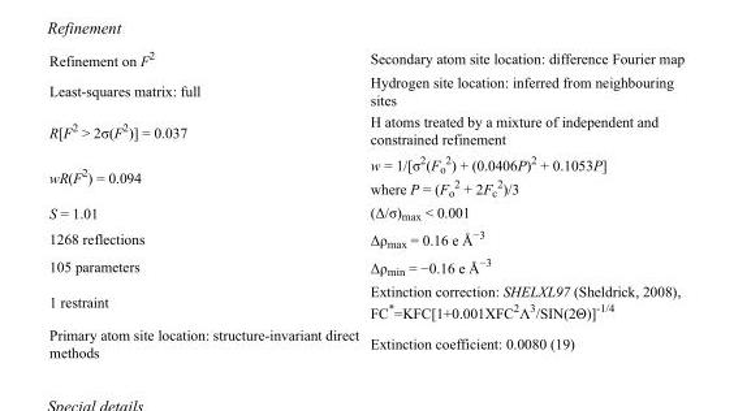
<table><tbody><tr><td>Refinement on F<sup>2</sup></td><td>Secondary atom site location: difference Fourier map</td></tr><tr><td>Least-squares matrix: full</td><td>Hydrogen site location: inferred from neighbouring sites</td></tr><tr><td>R[F<sup>2</sup> &gt; 2σ(F<sup>2</sup>)] = 0.037</td><td>H atoms treated by a mixture of independent and constrained refinement</td></tr><tr><td>wR(F<sup>2</sup>) = 0.094</td><td>w = 1/[σ<sup>2</sup>(F<sub>o</sub> <sup>2</sup>) + (0.0406P)<sup>2</sup> + 0.1053P] where P = (F<sub>o</sub> <sup>2</sup> + 2F<sub>c</sub> <sup>2</sup>)/3</td></tr><tr><td>S = 1.01</td><td>(Δ/σ)<sub>max</sub> &lt; 0.001</td></tr><tr><td>1268 reflections</td><td>Δρ<sub>max</sub> = 0.16 e Å<sup>−3</sup></td></tr><tr><td>105 parameters</td><td>Δρ<sub>min</sub> = −0.16 e Å<sup>−3</sup></td></tr><tr><td>1 restraint</td><td>Extinction correction: SHELXL97 (Sheldrick, 2008), FC*=KFC[1+0.001XFC<sup>2</sup>Λ<sup>3</sup>/SIN(2Θ)]<sup>-1/4</sup></td></tr><tr><td>Primary atom site location: structure-invariant direct methods</td><td>Extinction coefficient: 0.0080 (19)</td></tr></tbody></table>